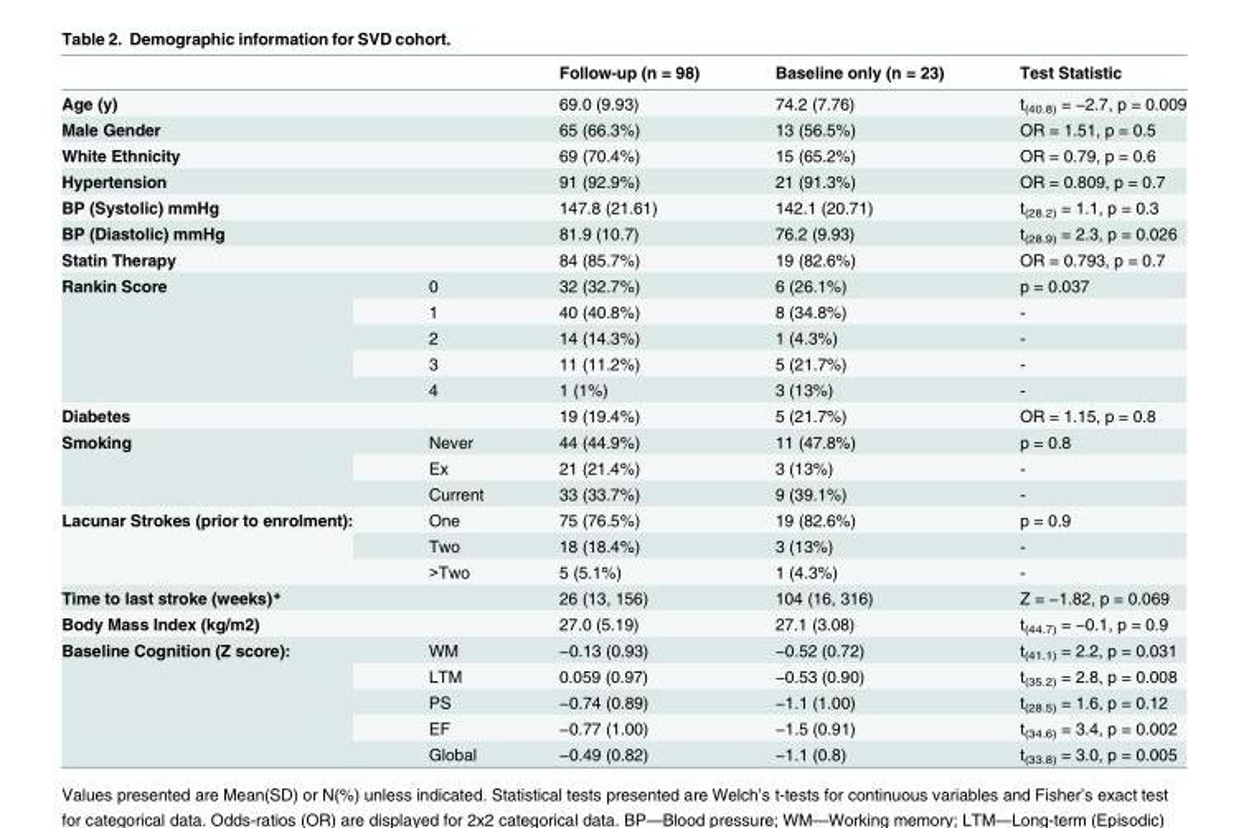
<table><thead><tr><td></td><td></td><td>Follow-up (n = 98)</td><td>Baseline only (n = 23)</td><td>Test Statistic</td></tr></thead><tbody><tr><td>Age (y)</td><td></td><td>69.0 (9.93)</td><td>74.2 (7.76)</td><td>t<sub>(40.8)</sub> = −2.7, p = 0.009</td></tr><tr><td>Male Gender</td><td></td><td>65 (66.3%)</td><td>13 (56.5%)</td><td>OR = 1.51, p = 0.5</td></tr><tr><td>White Ethnicity</td><td></td><td>69 (70.4%)</td><td>15 (65.2%)</td><td>OR = 0.79, p = 0.6</td></tr><tr><td>Hypertension</td><td></td><td>91 (92.9%)</td><td>21 (91.3%)</td><td>OR = 0.809, p = 0.7</td></tr><tr><td>BP (Systolic) mmHg</td><td></td><td>147.8 (21.61)</td><td>142.1 (20.71)</td><td>t<sub>(28.2)</sub> = 1.1, p = 0.3</td></tr><tr><td>BP (Diastolic) mmHg</td><td></td><td>81.9 (10.7)</td><td>76.2 (9.93)</td><td>t<sub>(28.9)</sub> = 2.3, p = 0.026</td></tr><tr><td>Statin Therapy</td><td></td><td>84 (85.7%)</td><td>19 (82.6%)</td><td>OR = 0.793, p = 0.7</td></tr><tr><td rowspan="5">Rankin Score</td><td>0</td><td>32 (32.7%)</td><td>6 (26.1%)</td><td>p = 0.037</td></tr><tr><td>1</td><td>40 (40.8%)</td><td>8 (34.8%)</td><td>-</td></tr><tr><td>2</td><td>14 (14.3%)</td><td>1 (4.3%)</td><td>-</td></tr><tr><td>3</td><td>11 (11.2%)</td><td>5 (21.7%)</td><td>-</td></tr><tr><td>4</td><td>1 (1%)</td><td>3 (13%)</td><td>-</td></tr><tr><td>Diabetes</td><td></td><td>19 (19.4%)</td><td>5 (21.7%)</td><td>OR = 1.15, p = 0.8</td></tr><tr><td rowspan="3">Smoking</td><td>Never</td><td>44 (44.9%)</td><td>11 (47.8%)</td><td>p = 0.8</td></tr><tr><td>Ex</td><td>21 (21.4%)</td><td>3 (13%)</td><td>-</td></tr><tr><td>Current</td><td>33 (33.7%)</td><td>9 (39.1%)</td><td>-</td></tr><tr><td rowspan="3">Lacunar Strokes (prior to enrolment):</td><td>One</td><td>75 (76.5%)</td><td>19 (82.6%)</td><td>p = 0.9</td></tr><tr><td>Two</td><td>18 (18.4%)</td><td>3 (13%)</td><td>-</td></tr><tr><td>&gt;Two</td><td>5 (5.1%)</td><td>1 (4.3%)</td><td>-</td></tr><tr><td>Time to last stroke (weeks)*</td><td></td><td>26 (13, 156)</td><td>104 (16, 316)</td><td>Z = −1.82, p = 0.069</td></tr><tr><td>Body Mass Index (kg/m2)</td><td></td><td>27.0 (5.19)</td><td>27.1 (3.08)</td><td>t<sub>(44.7)</sub> = −0.1, p = 0.9</td></tr><tr><td rowspan="5">Baseline Cognition (Z score):</td><td>WM</td><td>−0.13 (0.93)</td><td>−0.52 (0.72)</td><td>t<sub>(41.1)</sub> = 2.2, p = 0.031</td></tr><tr><td>LTM</td><td>0.059 (0.97)</td><td>−0.53 (0.90)</td><td>t<sub>(35.2)</sub> = 2.8, p = 0.008</td></tr><tr><td>PS</td><td>−0.74 (0.89)</td><td>−1.1 (1.00)</td><td>t<sub>(28.5)</sub> = 1.6, p = 0.12</td></tr><tr><td>EF</td><td>−0.77 (1.00)</td><td>−1.5 (0.91)</td><td>t<sub>(34.6)</sub> = 3.4, p = 0.002</td></tr><tr><td>Global</td><td>−0.49 (0.82)</td><td>−1.1 (0.8)</td><td>t<sub>(33.8)</sub> = 3.0, p = 0.005</td></tr></tbody></table>